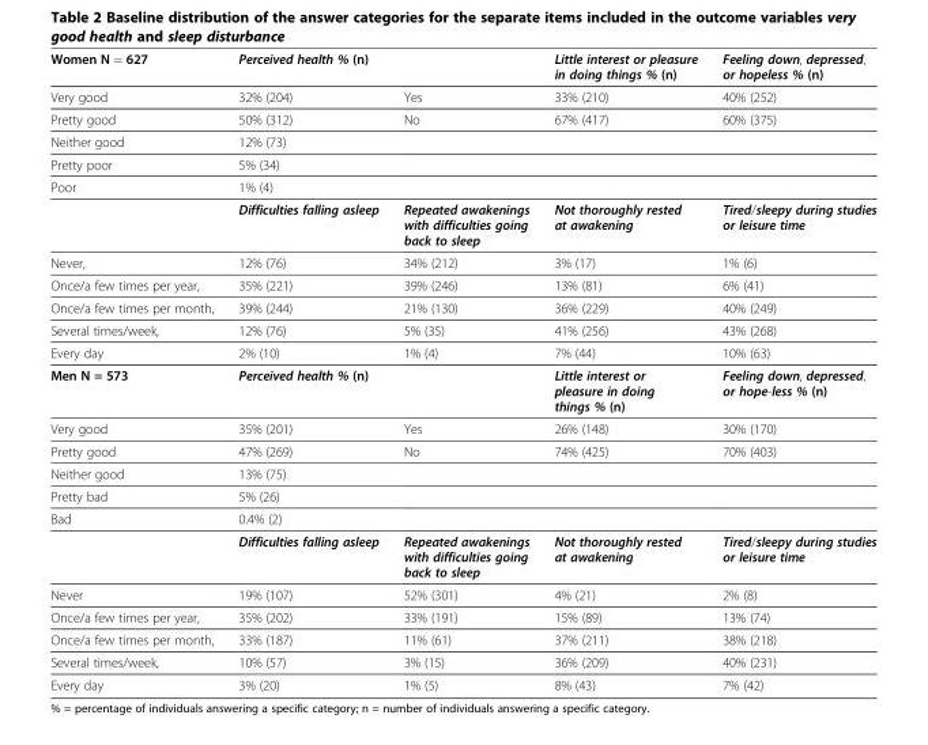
<table><thead><tr><td>Women N = 627</td><td>Perceived health % (n)</td><td></td><td>Little interest or pleasure in doing things % (n)</td><td>Feeling down, depressed, or hopeless % (n)</td></tr></thead><tbody><tr><td>Very good</td><td>32% (204)</td><td>Yes</td><td>33% (210)</td><td>40% (252)</td></tr><tr><td>Pretty good</td><td>50% (312)</td><td>No</td><td>67% (417)</td><td>60% (375)</td></tr><tr><td>Neither good</td><td>12% (73)</td><td></td><td></td><td></td></tr><tr><td>Pretty poor</td><td>5% (34)</td><td></td><td></td><td></td></tr><tr><td rowspan="2">Poor</td><td>1% (4)</td><td></td><td></td><td></td></tr><tr><td>Difficulties falling asleep</td><td>Repeated awakenings with difficulties going back to sleep</td><td>Not thoroughly rested at awakening</td><td>Tired/sleepy during studies or leisure time</td></tr><tr><td>Never,</td><td>12% (76)</td><td>34% (212)</td><td>3% (17)</td><td>1% (6)</td></tr><tr><td>Once/a few times per year,</td><td>35% (221)</td><td>39% (246)</td><td>13% (81)</td><td>6% (41)</td></tr><tr><td>Once/a few times per month,</td><td>39% (244)</td><td>21% (130)</td><td>36% (229)</td><td>40% (249)</td></tr><tr><td>Several times/week,</td><td>12% (76)</td><td>5% (35)</td><td>41% (256)</td><td>43% (268)</td></tr><tr><td>Every day</td><td>2% (10)</td><td>1% (4)</td><td>7% (44)</td><td>10% (63)</td></tr><tr><td>Men N = 573</td><td>Perceived health % (n)</td><td></td><td>Little interest or pleasure in doing things % (n)</td><td>Feeling down, depressed, or hope-less % (n)</td></tr><tr><td>Very good</td><td>35% (201)</td><td>Yes</td><td>26% (148)</td><td>30% (170)</td></tr><tr><td>Pretty good</td><td>47% (269)</td><td>No</td><td>74% (425)</td><td>70% (403)</td></tr><tr><td>Neither good</td><td>13% (75)</td><td></td><td></td><td></td></tr><tr><td>Pretty bad</td><td>5% (26)</td><td></td><td></td><td></td></tr><tr><td rowspan="2">Bad</td><td>0.4% (2)</td><td></td><td></td><td></td></tr><tr><td>Difficulties falling asleep</td><td>Repeated awakenings with difficulties going back to sleep</td><td>Not thoroughly rested at awakening</td><td>Tired/sleepy during studies or leisure time</td></tr><tr><td>Never</td><td>19% (107)</td><td>52% (301)</td><td>4% (21)</td><td>2% (8)</td></tr><tr><td>Once/a few times per year,</td><td>35% (202)</td><td>33% (191)</td><td>15% (89)</td><td>13% (74)</td></tr><tr><td>Once/a few times per month,</td><td>33% (187)</td><td>11% (61)</td><td>37% (211)</td><td>38% (218)</td></tr><tr><td>Several times/week,</td><td>10% (57)</td><td>3% (15)</td><td>36% (209)</td><td>40% (231)</td></tr><tr><td>Every day</td><td>3% (20)</td><td>1% (5)</td><td>8% (43)</td><td>7% (42)</td></tr></tbody></table>